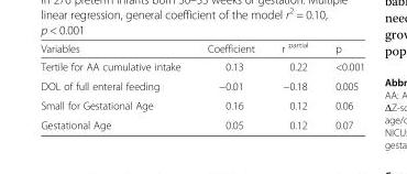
<table><thead><tr><td>Variables</td><td>Coefficient</td><td>r <sup>partial</sup></td><td>p</td></tr></thead><tbody><tr><td>Tertile for AA cumulative intake</td><td>0.13</td><td>0.22</td><td>&lt;0.001</td></tr><tr><td>DOL of full enteral feeding</td><td>−0.01</td><td>−0.18</td><td>0.005</td></tr><tr><td>Small for Gestational Age</td><td>0.16</td><td>0.12</td><td>0.06</td></tr><tr><td>Gestational Age</td><td>0.05</td><td>0.12</td><td>0.07</td></tr></tbody></table>